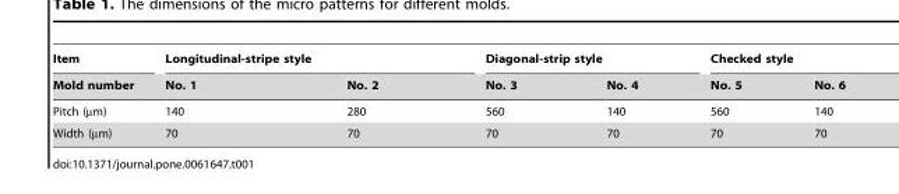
<table><thead><tr><td rowspan="2">Item Mold number</td><td colspan="2">Longitudinal-stripe style</td><td colspan="2">Diagonal-strip style</td><td colspan="2">Checked style</td></tr><tr><td>No. 1</td><td>No. 2</td><td>No. 3</td><td>No. 4</td><td>No. 5</td><td>No. 6</td></tr></thead><tbody><tr><td>Pitch (µm)</td><td>140</td><td>280</td><td>560</td><td>140</td><td>560</td><td>140</td></tr><tr><td>Width (µm)</td><td>70</td><td>70</td><td>70</td><td>70</td><td>70</td><td>70</td></tr></tbody></table>